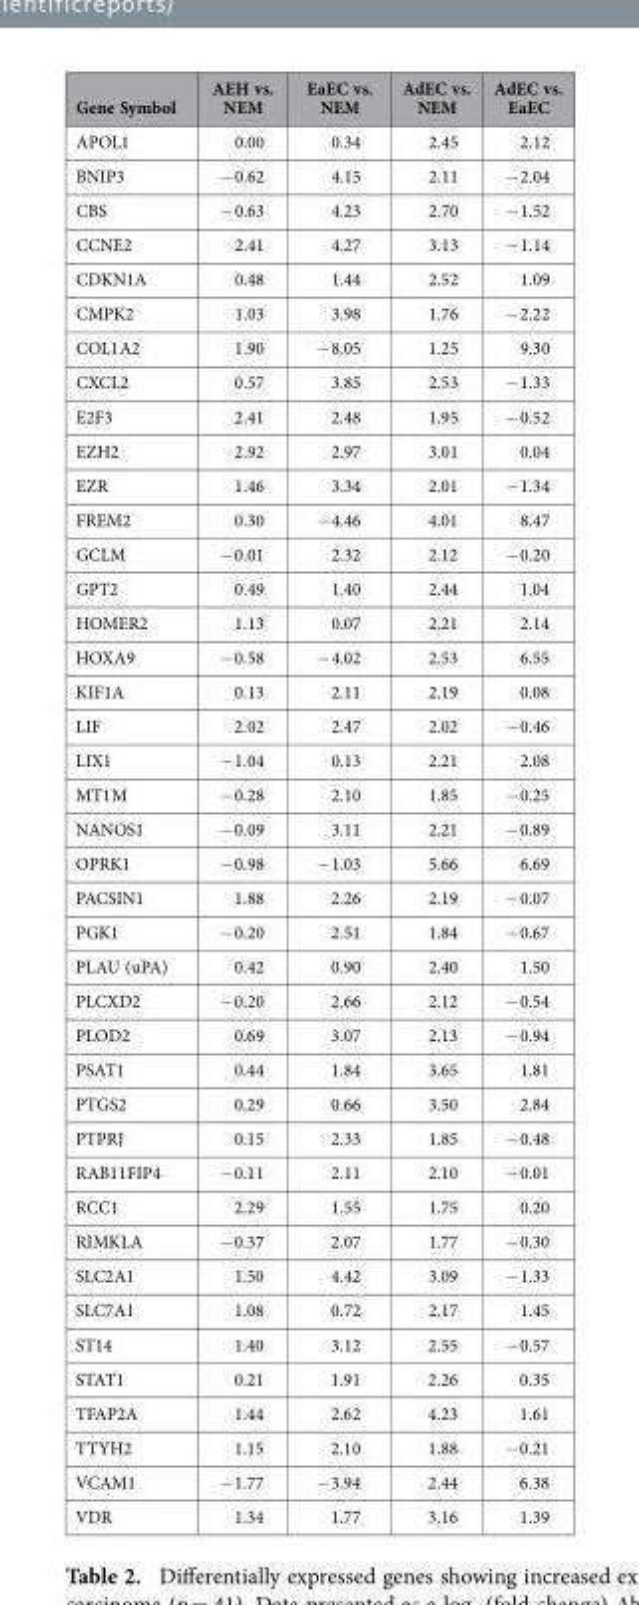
<table><thead><tr><td>Gene Symbol</td><td>AEH vs. NEM</td><td>EaEC vs. NEM</td><td>AdEC vs. NEM</td><td>AdEC vs. EaEC</td></tr></thead><tbody><tr><td>APOL1</td><td>0.00</td><td>0.34</td><td>2.45</td><td>2.12</td></tr><tr><td>BNIP3</td><td>− 0.62</td><td>4.15</td><td>2.11</td><td>− 2.04</td></tr><tr><td>CBS</td><td>− 0.63</td><td>4.23</td><td>2.70</td><td>− 1.52</td></tr><tr><td>CCNE2</td><td>2.41</td><td>4.27</td><td>3.13</td><td>− 1.14</td></tr><tr><td>CDKN1A</td><td>0.48</td><td>1.44</td><td>2.52</td><td>1.09</td></tr><tr><td>CMPK2</td><td>1.03</td><td>3.98</td><td>1.76</td><td>− 2.22</td></tr><tr><td>COL1A2</td><td>1.90</td><td>− 8.05</td><td>1.25</td><td>9.30</td></tr><tr><td>CXCL2</td><td>0.57</td><td>3.85</td><td>2.53</td><td>− 1.33</td></tr><tr><td>E2F3</td><td>2.41</td><td>2.48</td><td>1.95</td><td>− 0.52</td></tr><tr><td>EZH2</td><td>2.92</td><td>2.97</td><td>3.01</td><td>0.04</td></tr><tr><td>EZR</td><td>1.46</td><td>3.34</td><td>2.01</td><td>− 1.34</td></tr><tr><td>FREM2</td><td>0.30</td><td>− 4.46</td><td>4.01</td><td>8.47</td></tr><tr><td>GCLM</td><td>− 0.01</td><td>2.32</td><td>2.12</td><td>− 0.20</td></tr><tr><td>GPT2</td><td>0.49</td><td>1.40</td><td>2.44</td><td>1.04</td></tr><tr><td>HOMER2</td><td>1.13</td><td>0.07</td><td>2.21</td><td>2.14</td></tr><tr><td>HOXA9</td><td>− 0.58</td><td>− 4.02</td><td>2.53</td><td>6.55</td></tr><tr><td>KIF1A</td><td>0.13</td><td>2.11</td><td>2.19</td><td>0.08</td></tr><tr><td>LIF</td><td>2.02</td><td>2.47</td><td>2.02</td><td>− 0.46</td></tr><tr><td>LIX1</td><td>− 1.04</td><td>0.13</td><td>2.21</td><td>2.08</td></tr><tr><td>MT1M</td><td>− 0.28</td><td>2.10</td><td>1.85</td><td>− 0.25</td></tr><tr><td>NANOS1</td><td>− 0.09</td><td>3.11</td><td>2.21</td><td>− 0.89</td></tr><tr><td>OPRK1</td><td>− 0.98</td><td>− 1.03</td><td>5.66</td><td>6.69</td></tr><tr><td>PACSIN1</td><td>1.88</td><td>2.26</td><td>2.19</td><td>− 0.07</td></tr><tr><td>PGK1</td><td>− 0.20</td><td>2.51</td><td>1.84</td><td>− 0.67</td></tr><tr><td>PLAU (uPA)</td><td>0.42</td><td>0.90</td><td>2.40</td><td>1.50</td></tr><tr><td>PLCXD2</td><td>− 0.20</td><td>2.66</td><td>2.12</td><td>− 0.54</td></tr><tr><td>PLOD2</td><td>0.69</td><td>3.07</td><td>2.13</td><td>− 0.94</td></tr><tr><td>PSAT1</td><td>0.44</td><td>1.84</td><td>3.65</td><td>1.81</td></tr><tr><td>PTGS2</td><td>0.29</td><td>0.66</td><td>3.50</td><td>2.84</td></tr><tr><td>PTPRJ</td><td>0.15</td><td>2.33</td><td>1.85</td><td>− 0.48</td></tr><tr><td>RAB11FIP4</td><td>− 0.11</td><td>2.11</td><td>2.10</td><td>− 0.01</td></tr><tr><td>RCC1</td><td>2.29</td><td>1.55</td><td>1.75</td><td>0.20</td></tr><tr><td>RIMKLA</td><td>− 0.37</td><td>2.07</td><td>1.77</td><td>− 0.30</td></tr><tr><td>SLC2A1</td><td>1.50</td><td>4.42</td><td>3.09</td><td>− 1.33</td></tr><tr><td>SLC7A1</td><td>1.08</td><td>0.72</td><td>2.17</td><td>1.45</td></tr><tr><td>ST14</td><td>1.40</td><td>3.12</td><td>2.55</td><td>− 0.57</td></tr><tr><td>STAT1</td><td>0.21</td><td>1.91</td><td>2.26</td><td>0.35</td></tr><tr><td>TFAP2A</td><td>1.44</td><td>2.62</td><td>4.23</td><td>1.61</td></tr><tr><td>TTYH2</td><td>1.15</td><td>2.10</td><td>1.88</td><td>− 0.21</td></tr><tr><td>VCAM1</td><td>− 1.77</td><td>− 3.94</td><td>2.44</td><td>6.38</td></tr><tr><td>VDR</td><td>1.34</td><td>1.77</td><td>3.16</td><td>1.39</td></tr></tbody></table>